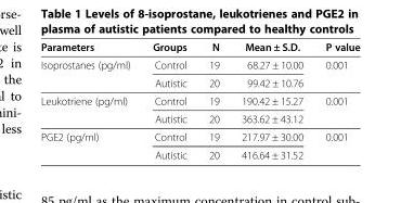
<table><thead><tr><td>Parameters</td><td>Groups</td><td>N</td><td>Mean ± S.D.</td><td>P value</td></tr></thead><tbody><tr><td rowspan="2">Isoprostanes (pg/ml)</td><td>Control</td><td>19</td><td>68.27 ± 10.00</td><td rowspan="2">0.001</td></tr><tr><td>Autistic</td><td>20</td><td>99.42 ± 10.76</td></tr><tr><td rowspan="2">Leukotriene (pg/ml)</td><td>Control</td><td>19</td><td>190.42 ± 15.27</td><td rowspan="2">0.001</td></tr><tr><td>Autistic</td><td>20</td><td>363.62 ± 43.12</td></tr><tr><td rowspan="2">PGE2 (pg/ml)</td><td>Control</td><td>19</td><td>217.97 ± 30.00</td><td rowspan="2">0.001</td></tr><tr><td>Autistic</td><td>20</td><td>416.64 ± 31.52</td></tr></tbody></table>